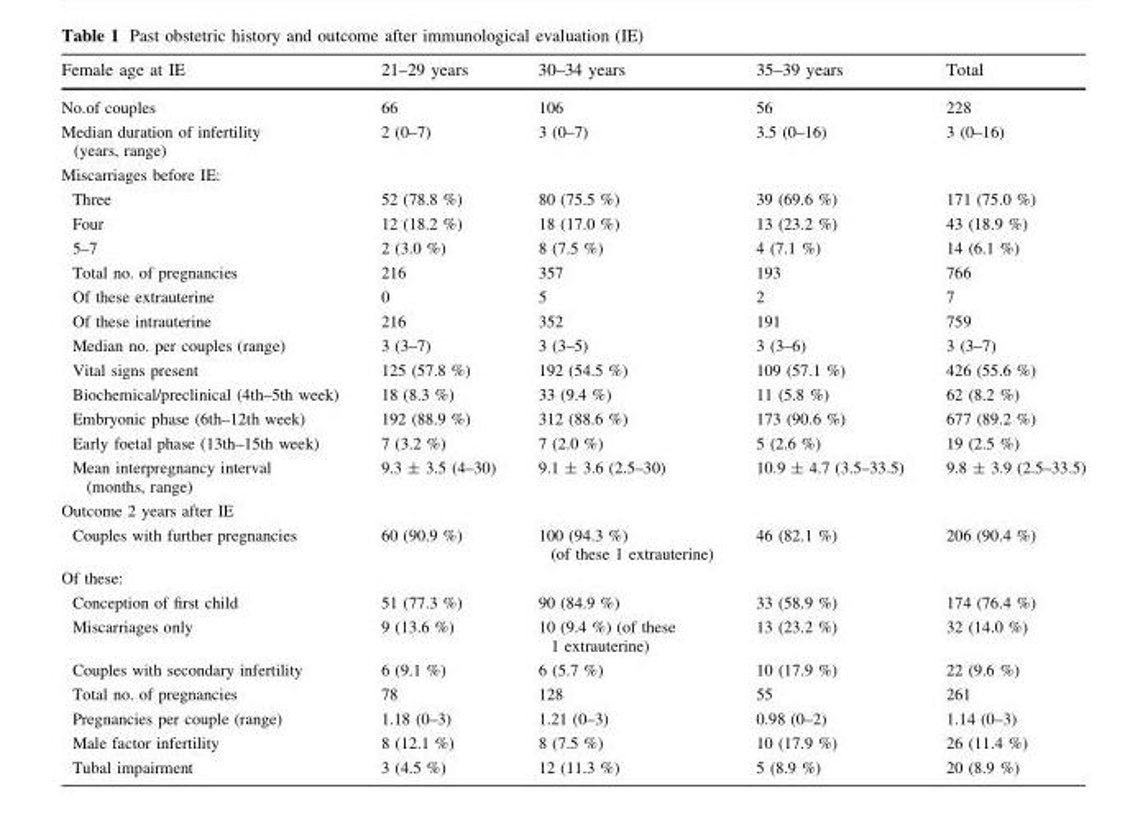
<table><thead><tr><td>Female age at IE</td><td>21–29 years</td><td>30–34 years</td><td>35–39 years</td><td>Total</td></tr></thead><tbody><tr><td>No.of couples</td><td>66</td><td>106</td><td>56</td><td>228</td></tr><tr><td>Median duration of infertility (years, range)</td><td>2 (0–7)</td><td>3 (0–7)</td><td>3.5 (0–16)</td><td>3 (0–16)</td></tr><tr><td colspan="5">Miscarriages before IE:</td></tr><tr><td>Three</td><td>52 (78.8 %)</td><td>80 (75.5 %)</td><td>39 (69.6 %)</td><td>171 (75.0 %)</td></tr><tr><td>Four</td><td>12 (18.2 %)</td><td>18 (17.0 %)</td><td>13 (23.2 %)</td><td>43 (18.9 %)</td></tr><tr><td>5–7</td><td>2 (3.0 %)</td><td>8 (7.5 %)</td><td>4 (7.1 %)</td><td>14 (6.1 %)</td></tr><tr><td>Total no. of pregnancies</td><td>216</td><td>357</td><td>193</td><td>766</td></tr><tr><td>Of these extrauterine</td><td>0</td><td>5</td><td>2</td><td>7</td></tr><tr><td>Of these intrauterine</td><td>216</td><td>352</td><td>191</td><td>759</td></tr><tr><td>Median no. per couples (range)</td><td>3 (3–7)</td><td>3 (3–5)</td><td>3 (3–6)</td><td>3 (3–7)</td></tr><tr><td>Vital signs present</td><td>125 (57.8 %)</td><td>192 (54.5 %)</td><td>109 (57.1 %)</td><td>426 (55.6 %)</td></tr><tr><td>Biochemical/preclinical (4th–5th week)</td><td>18 (8.3 %)</td><td>33 (9.4 %)</td><td>11 (5.8 %)</td><td>62 (8.2 %)</td></tr><tr><td>Embryonic phase (6th–12th week)</td><td>192 (88.9 %)</td><td>312 (88.6 %)</td><td>173 (90.6 %)</td><td>677 (89.2 %)</td></tr><tr><td>Early foetal phase (13th–15th week)</td><td>7 (3.2 %)</td><td>7 (2.0 %)</td><td>5 (2.6 %)</td><td>19 (2.5 %)</td></tr><tr><td>Mean interpregnancy interval (months, range)</td><td>9.3 ± 3.5 (4–30)</td><td>9.1 ± 3.6 (2.5–30)</td><td>10.9 ± 4.7 (3.5–33.5)</td><td>9.8 ± 3.9 (2.5–33.5)</td></tr><tr><td colspan="5">Outcome 2 years after IE</td></tr><tr><td>Couples with further pregnancies</td><td>60 (90.9 %)</td><td>100 (94.3 %) (of these 1 extrauterine)</td><td>46 (82.1 %)</td><td>206 (90.4 %)</td></tr><tr><td colspan="5">Of these:</td></tr><tr><td>Conception of first child</td><td>51 (77.3 %)</td><td>90 (84.9 %)</td><td>33 (58.9 %)</td><td>174 (76.4 %)</td></tr><tr><td>Miscarriages only</td><td>9 (13.6 %)</td><td>10 (9.4 %) (of these 1 extrauterine)</td><td>13 (23.2 %)</td><td>32 (14.0 %)</td></tr><tr><td>Couples with secondary infertility</td><td>6 (9.1 %)</td><td>6 (5.7 %)</td><td>10 (17.9 %)</td><td>22 (9.6 %)</td></tr><tr><td>Total no. of pregnancies</td><td>78</td><td>128</td><td>55</td><td>261</td></tr><tr><td>Pregnancies per couple (range)</td><td>1.18 (0–3)</td><td>1.21 (0–3)</td><td>0.98 (0–2)</td><td>1.14 (0–3)</td></tr><tr><td>Male factor infertility</td><td>8 (12.1 %)</td><td>8 (7.5 %)</td><td>10 (17.9 %)</td><td>26 (11.4 %)</td></tr><tr><td>Tubal impairment</td><td>3 (4.5 %)</td><td>12 (11.3 %)</td><td>5 (8.9 %)</td><td>20 (8.9 %)</td></tr></tbody></table>